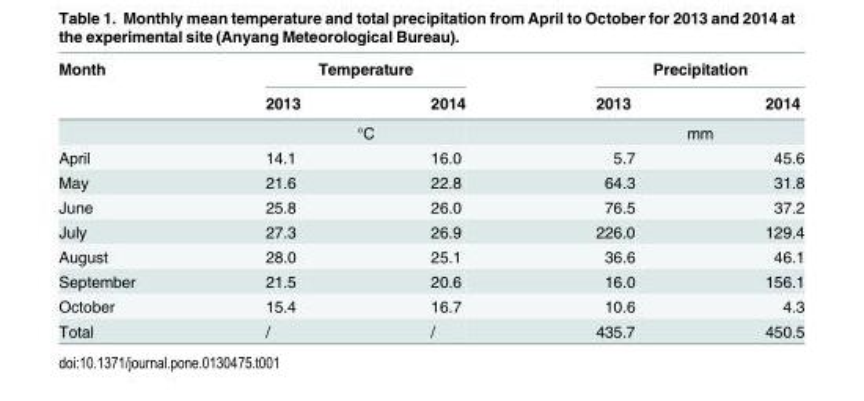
<table><thead><tr><td rowspan="2">Month</td><td colspan="2">Temperature</td><td colspan="2">Precipitation</td></tr><tr><td>2013</td><td>2014</td><td>2013</td><td>2014</td></tr></thead><tbody><tr><td></td><td colspan="2">°C</td><td colspan="2">mm</td></tr><tr><td>April</td><td>14.1</td><td>16.0</td><td>5.7</td><td>45.6</td></tr><tr><td>May</td><td>21.6</td><td>22.8</td><td>64.3</td><td>31.8</td></tr><tr><td>June</td><td>25.8</td><td>26.0</td><td>76.5</td><td>37.2</td></tr><tr><td>July</td><td>27.3</td><td>26.9</td><td>226.0</td><td>129.4</td></tr><tr><td>August</td><td>28.0</td><td>25.1</td><td>36.6</td><td>46.1</td></tr><tr><td>September</td><td>21.5</td><td>20.6</td><td>16.0</td><td>156.1</td></tr><tr><td>October</td><td>15.4</td><td>16.7</td><td>10.6</td><td>4.3</td></tr><tr><td>Total</td><td>/</td><td>/</td><td>435.7</td><td>450.5</td></tr></tbody></table>